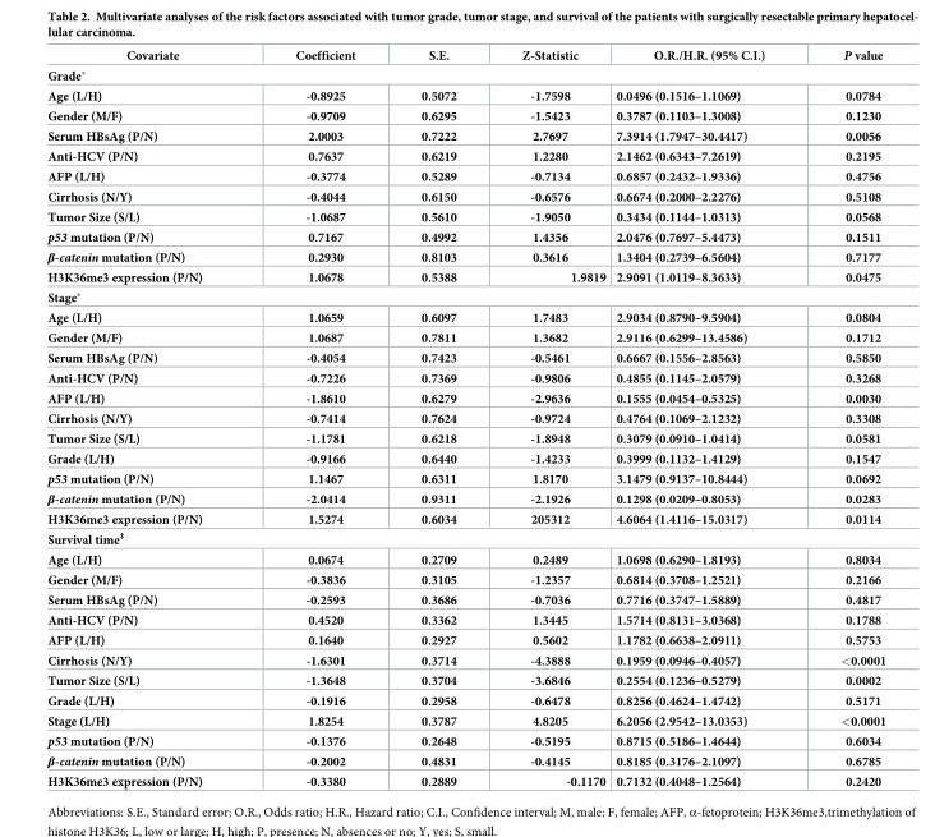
<table><thead><tr><td>Covariate</td><td>Coefficient</td><td>S.E.</td><td>Z-Statistic</td><td>O.R./H.R. (95% C.I.)</td><td>P value</td></tr></thead><tbody><tr><td colspan="6">Grade*</td></tr><tr><td>Age (L/H)</td><td>-0.8925</td><td>0.5072</td><td>-1.7598</td><td>0.0496 (0.1516–1.1069)</td><td>0.0784</td></tr><tr><td>Gender (M/F)</td><td>-0.9709</td><td>0.6295</td><td>-1.5423</td><td>0.3787 (0.1103–1.3008)</td><td>0.1230</td></tr><tr><td>Serum HBsAg (P/N)</td><td>2.0003</td><td>0.7222</td><td>2.7697</td><td>7.3914 (1.7947–30.4417)</td><td>0.0056</td></tr><tr><td>Anti-HCV (P/N)</td><td>0.7637</td><td>0.6219</td><td>1.2280</td><td>2.1462 (0.6343–7.2619)</td><td>0.2195</td></tr><tr><td>AFP (L/H)</td><td>-0.3774</td><td>0.5289</td><td>-0.7134</td><td>0.6857 (0.2432–1.9336)</td><td>0.4756</td></tr><tr><td>Cirrhosis (N/Y)</td><td>-0.4044</td><td>0.6150</td><td>-0.6576</td><td>0.6674 (0.2000–2.2276)</td><td>0.5108</td></tr><tr><td>Tumor Size (S/L)</td><td>-1.0687</td><td>0.5610</td><td>-1.9050</td><td>0.3434 (0.1144–1.0313)</td><td>0.0568</td></tr><tr><td>p53 mutation (P/N)</td><td>0.7167</td><td>0.4992</td><td>1.4356</td><td>2.0476 (0.7697–5.4473)</td><td>0.1511</td></tr><tr><td>β-catenin mutation (P/N)</td><td>0.2930</td><td>0.8103</td><td>0.3616</td><td>1.3404 (0.2739–6.5604)</td><td>0.7177</td></tr><tr><td>H3K36me3 expression (P/N)</td><td>1.0678</td><td>0.5388</td><td>1.9819</td><td>2.9091 (1.0119–8.3633)</td><td>0.0475</td></tr><tr><td colspan="6">Stage*</td></tr><tr><td>Age (L/H)</td><td>1.0659</td><td>0.6097</td><td>1.7483</td><td>2.9034 (0.8790–9.5904)</td><td>0.0804</td></tr><tr><td>Gender (M/F)</td><td>1.0687</td><td>0.7811</td><td>1.3682</td><td>2.9116 (0.6299–13.4586)</td><td>0.1712</td></tr><tr><td>Serum HBsAg (P/N)</td><td>-0.4054</td><td>0.7423</td><td>-0.5461</td><td>0.6667 (0.1556–2.8563)</td><td>0.5850</td></tr><tr><td>Anti-HCV (P/N)</td><td>-0.7226</td><td>0.7369</td><td>-0.9806</td><td>0.4855 (0.1145–2.0579)</td><td>0.3268</td></tr><tr><td>AFP (L/H)</td><td>-1.8610</td><td>0.6279</td><td>-2.9636</td><td>0.1555 (0.0454–0.5325)</td><td>0.0030</td></tr><tr><td>Cirrhosis (N/Y)</td><td>-0.7414</td><td>0.7624</td><td>-0.9724</td><td>0.4764 (0.1069–2.1232)</td><td>0.3308</td></tr><tr><td>Tumor Size (S/L)</td><td>-1.1781</td><td>0.6218</td><td>-1.8948</td><td>0.3079 (0.0910–1.0414)</td><td>0.0581</td></tr><tr><td>Grade (L/H)</td><td>-0.9166</td><td>0.6440</td><td>-1.4233</td><td>0.3999 (0.1132–1.4129)</td><td>0.1547</td></tr><tr><td>p53 mutation (P/N)</td><td>1.1467</td><td>0.6311</td><td>1.8170</td><td>3.1479 (0.9137–10.8444)</td><td>0.0692</td></tr><tr><td>β-catenin mutation (P/N)</td><td>-2.0414</td><td>0.9311</td><td>-2.1926</td><td>0.1298 (0.0209–0.8053)</td><td>0.0283</td></tr><tr><td>H3K36me3 expression (P/N)</td><td>1.5274</td><td>0.6034</td><td>205312</td><td>4.6064 (1.4116–15.0317)</td><td>0.0114</td></tr><tr><td colspan="6">Survival time<sup>‡</sup></td></tr><tr><td>Age (L/H)</td><td>0.0674</td><td>0.2709</td><td>0.2489</td><td>1.0698 (0.6290–1.8193)</td><td>0.8034</td></tr><tr><td>Gender (M/F)</td><td>-0.3836</td><td>0.3105</td><td>-1.2357</td><td>0.6814 (0.3708–1.2521)</td><td>0.2166</td></tr><tr><td>Serum HBsAg (P/N)</td><td>-0.2593</td><td>0.3686</td><td>-0.7036</td><td>0.7716 (0.3747–1.5889)</td><td>0.4817</td></tr><tr><td>Anti-HCV (P/N)</td><td>0.4520</td><td>0.3362</td><td>1.3445</td><td>1.5714 (0.8131–3.0368)</td><td>0.1788</td></tr><tr><td>AFP (L/H)</td><td>0.1640</td><td>0.2927</td><td>0.5602</td><td>1.1782 (0.6638–2.0911)</td><td>0.5753</td></tr><tr><td>Cirrhosis (N/Y)</td><td>-1.6301</td><td>0.3714</td><td>-4.3888</td><td>0.1959 (0.0946–0.4057)</td><td>&lt;0.0001</td></tr><tr><td>Tumor Size (S/L)</td><td>-1.3648</td><td>0.3704</td><td>-3.6846</td><td>0.2554 (0.1236–0.5279)</td><td>0.0002</td></tr><tr><td>Grade (L/H)</td><td>-0.1916</td><td>0.2958</td><td>-0.6478</td><td>0.8256 (0.4624–1.4742)</td><td>0.5171</td></tr><tr><td>Stage (L/H)</td><td>1.8254</td><td>0.3787</td><td>4.8205</td><td>6.2056 (2.9542–13.0353)</td><td>&lt;0.0001</td></tr><tr><td>p53 mutation (P/N)</td><td>-0.1376</td><td>0.2648</td><td>-0.5195</td><td>0.8715 (0.5186–1.4644)</td><td>0.6034</td></tr><tr><td>β-catenin mutation (P/N)</td><td>-0.2002</td><td>0.4831</td><td>-0.4145</td><td>0.8185 (0.3176–2.1097)</td><td>0.6785</td></tr><tr><td>H3K36me3 expression (P/N)</td><td>-0.3380</td><td>0.2889</td><td>-0.1170</td><td>0.7132 (0.4048–1.2564)</td><td>0.2420</td></tr></tbody></table>